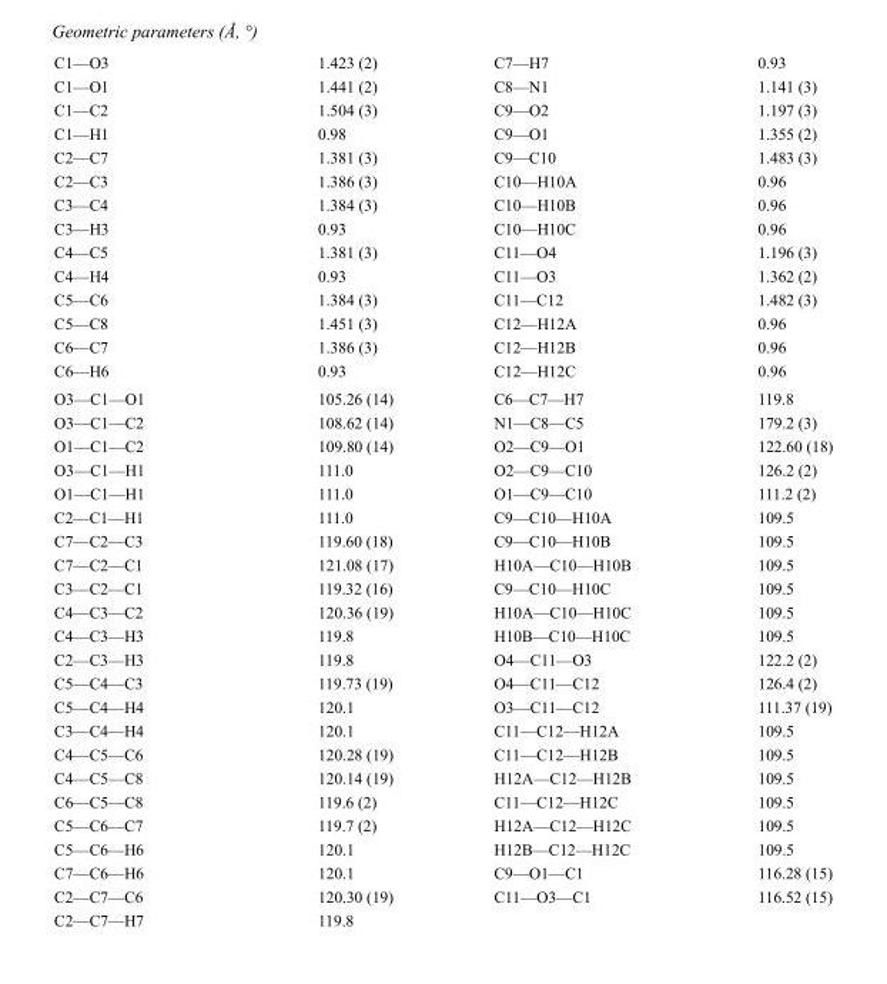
<table><tbody><tr><td>C1—O3</td><td>1.423 (2)</td><td>C7—H7</td><td>0.93</td></tr><tr><td>C1—O1</td><td>1.441 (2)</td><td>C8—N1</td><td>1.141 (3)</td></tr><tr><td>C1—C2</td><td>1.504 (3)</td><td>C9—O2</td><td>1.197 (3)</td></tr><tr><td>C1—H1</td><td>0.98</td><td>C9—O1</td><td>1.355 (2)</td></tr><tr><td>C2—C7</td><td>1.381 (3)</td><td>C9—C10</td><td>1.483 (3)</td></tr><tr><td>C2—C3</td><td>1.386 (3)</td><td>C10—H10A</td><td>0.96</td></tr><tr><td>C3—C4</td><td>1.384 (3)</td><td>C10—H10B</td><td>0.96</td></tr><tr><td>C3—H3</td><td>0.93</td><td>C10—H10C</td><td>0.96</td></tr><tr><td>C4—C5</td><td>1.381 (3)</td><td>C11—O4</td><td>1.196 (3)</td></tr><tr><td>C4—H4</td><td>0.93</td><td>C11—O3</td><td>1.362 (2)</td></tr><tr><td>C5—C6</td><td>1.384 (3)</td><td>C11—C12</td><td>1.482 (3)</td></tr><tr><td>C5—C8</td><td>1.451 (3)</td><td>C12—H12A</td><td>0.96</td></tr><tr><td>C6—C7</td><td>1.386 (3)</td><td>C12—H12B</td><td>0.96</td></tr><tr><td>C6—H6</td><td>0.93</td><td>C12—H12C</td><td>0.96</td></tr><tr><td>O3—C1—O1</td><td>105.26 (14)</td><td>C6—C7—H7</td><td>119.8</td></tr><tr><td>O3—C1—C2</td><td>108.62 (14)</td><td>N1—C8—C5</td><td>179.2 (3)</td></tr><tr><td>O1—C1—C2</td><td>109.80 (14)</td><td>O2—C9—O1</td><td>122.60 (18)</td></tr><tr><td>O3—C1—H1</td><td>111.0</td><td>O2—C9—C10</td><td>126.2 (2)</td></tr><tr><td>O1—C1—H1</td><td>111.0</td><td>O1—C9—C10</td><td>111.2 (2)</td></tr><tr><td>C2—C1—H1</td><td>111.0</td><td>C9—C10—H10A</td><td>109.5</td></tr><tr><td>C7—C2—C3</td><td>119.60 (18)</td><td>C9—C10—H10B</td><td>109.5</td></tr><tr><td>C7—C2—C1</td><td>121.08 (17)</td><td>H10A—C10—H10B</td><td>109.5</td></tr><tr><td>C3—C2—C1</td><td>119.32 (16)</td><td>C9—C10—H10C</td><td>109.5</td></tr><tr><td>C4—C3—C2</td><td>120.36 (19)</td><td>H10A—C10—H10C</td><td>109.5</td></tr><tr><td>C4—C3—H3</td><td>119.8</td><td>H10B—C10—H10C</td><td>109.5</td></tr><tr><td>C2—C3—H3</td><td>119.8</td><td>O4—C11—O3</td><td>122.2 (2)</td></tr><tr><td>C5—C4—C3</td><td>119.73 (19)</td><td>O4—C11—C12</td><td>126.4 (2)</td></tr><tr><td>C5—C4—H4</td><td>120.1</td><td>O3—C11—C12</td><td>111.37 (19)</td></tr><tr><td>C3—C4—H4</td><td>120.1</td><td>C11—C12—H12A</td><td>109.5</td></tr><tr><td>C4—C5—C6</td><td>120.28 (19)</td><td>C11—C12—H12B</td><td>109.5</td></tr><tr><td>C4—C5—C8</td><td>120.14 (19)</td><td>H12A—C12—H12B</td><td>109.5</td></tr><tr><td>C6—C5—C8</td><td>119.6 (2)</td><td>C11—C12—H12C</td><td>109.5</td></tr><tr><td>C5—C6—C7</td><td>119.7 (2)</td><td>H12A—C12—H12C</td><td>109.5</td></tr><tr><td>C5—C6—H6</td><td>120.1</td><td>H12B—C12—H12C</td><td>109.5</td></tr><tr><td>C7—C6—H6</td><td>120.1</td><td>C9—O1—C1</td><td>116.28 (15)</td></tr><tr><td>C2—C7—C6</td><td>120.30 (19)</td><td>C11—O3—C1</td><td>116.52 (15)</td></tr><tr><td>C2—C7—H7</td><td>119.8</td><td></td><td></td></tr></tbody></table>